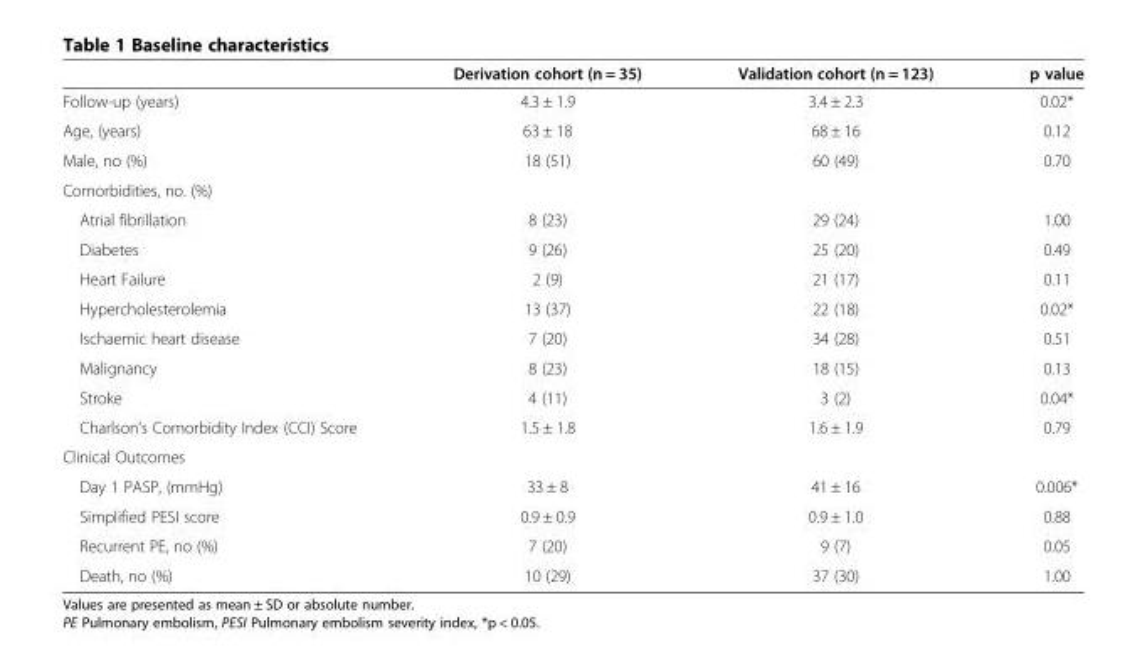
<table><thead><tr><td></td><td>Derivation cohort (n = 35)</td><td>Validation cohort (n = 123)</td><td>p value</td></tr></thead><tbody><tr><td>Follow-up (years)</td><td>4.3 ± 1.9</td><td>3.4 ± 2.3</td><td>0.02*</td></tr><tr><td>Age, (years)</td><td>63 ± 18</td><td>68 ± 16</td><td>0.12</td></tr><tr><td>Male, no (%)</td><td>18 (51)</td><td>60 (49)</td><td>0.70</td></tr><tr><td colspan="4">Comorbidities, no. (%)</td></tr><tr><td>Atrial fibrillation</td><td>8 (23)</td><td>29 (24)</td><td>1.00</td></tr><tr><td>Diabetes</td><td>9 (26)</td><td>25 (20)</td><td>0.49</td></tr><tr><td>Heart Failure</td><td>2 (9)</td><td>21 (17)</td><td>0.11</td></tr><tr><td>Hypercholesterolemia</td><td>13 (37)</td><td>22 (18)</td><td>0.02*</td></tr><tr><td>Ischaemic heart disease</td><td>7 (20)</td><td>34 (28)</td><td>0.51</td></tr><tr><td>Malignancy</td><td>8 (23)</td><td>18 (15)</td><td>0.13</td></tr><tr><td>Stroke</td><td>4 (11)</td><td>3 (2)</td><td>0.04*</td></tr><tr><td>Charlson’s Comorbidity Index (CCI) Score</td><td>1.5 ± 1.8</td><td>1.6 ± 1.9</td><td>0.79</td></tr><tr><td colspan="4">Clinical Outcomes</td></tr><tr><td>Day 1 PASP, (mmHg)</td><td>33 ± 8</td><td>41 ± 16</td><td>0.006*</td></tr><tr><td>Simplified PESI score</td><td>0.9 ± 0.9</td><td>0.9 ± 1.0</td><td>0.88</td></tr><tr><td>Recurrent PE, no (%)</td><td>7 (20)</td><td>9 (7)</td><td>0.05</td></tr><tr><td>Death, no (%)</td><td>10 (29)</td><td>37 (30)</td><td>1.00</td></tr></tbody></table>